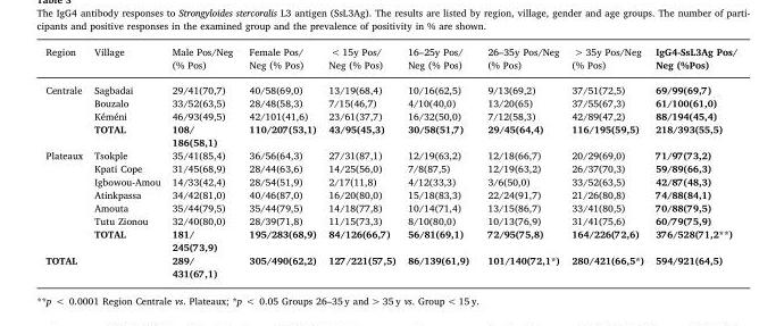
<table><thead><tr><td>Region</td><td>Village</td><td>Male Pos/Neg (% Pos)</td><td>Female Pos/ Neg (% Pos)</td><td>&lt; 15y Pos/ Neg (% Pos)</td><td>16–25y Pos/ Neg (% Pos)</td><td>26–35y Pos/Neg (% Pos)</td><td>&gt; 35y Pos/Neg (% Pos)</td><td>IgG4-SsL3Ag Pos/ Neg (%Pos)</td></tr></thead><tbody><tr><td rowspan="4">Centrale</td><td>Sagbadai</td><td>29/41(70,7)</td><td>40/58(69,0)</td><td>13/19(68,4)</td><td>10/16(62,5)</td><td>9/13(69,2)</td><td>37/51(72,5)</td><td>69/99(69,7)</td></tr><tr><td>Bouzalo</td><td>33/52(63,5)</td><td>28/48(58,3)</td><td>7/15(46,7)</td><td>4/10(40,0)</td><td>13/20(65)</td><td>37/55(67,3)</td><td>61/100(61,0)</td></tr><tr><td>Kéméni</td><td>46/93(49,5)</td><td>42/101(41,6)</td><td>23/61(37,7)</td><td>16/32(50,0)</td><td>7/12(58,3)</td><td>42/89(47,2)</td><td>88/194(45,4)</td></tr><tr><td>TOTAL</td><td>108/ 186(58,1)</td><td>110/207(53,1)</td><td>43/95(45,3)</td><td>30/58(51,7)</td><td>29/45(64,4)</td><td>116/195(59,5)</td><td>218/393(55,5)</td></tr><tr><td rowspan="7">Plateaux</td><td>Tsokple</td><td>35/41(85,4)</td><td>36/56(64,3)</td><td>27/31(87,1)</td><td>12/19(63,2)</td><td>12/18(66,7)</td><td>20/29(69,0)</td><td>71/97(73,2)</td></tr><tr><td>Kpati Cope</td><td>31/45(68,9)</td><td>28/44(63,6)</td><td>14/25(56,0)</td><td>7/8(87,5)</td><td>12/19(63,2)</td><td>26/37(70,3)</td><td>59/89(66,3)</td></tr><tr><td>Igbowou-Amou</td><td>14/33(42,4)</td><td>28/54(51,9)</td><td>2/17(11,8)</td><td>4/12(33,3)</td><td>3/6(50,0)</td><td>33/52(63,5)</td><td>42/87(48,3)</td></tr><tr><td>Atinkpassa</td><td>34/42(81,0)</td><td>40/46(87,0)</td><td>16/20(80,0)</td><td>15/18(83,3)</td><td>22/24(91,7)</td><td>21/26(80,8)</td><td>74/88(84,1)</td></tr><tr><td>Amouta</td><td>35/44(79,5)</td><td>35/44(79,5)</td><td>14/18(77,8)</td><td>10/14(71,4)</td><td>13/15(86,7)</td><td>33/41(80,5)</td><td>70/88(79,5)</td></tr><tr><td>Tutu Zionou</td><td>32/40(80,0)</td><td>28/39(71,8)</td><td>11/15(73,3)</td><td>8/10(80,0)</td><td>10/13(76,9)</td><td>31/41(75,6)</td><td>60/79(75,9)</td></tr><tr><td>TOTAL</td><td>181/ 245(73,9)</td><td>195/283(68,9)</td><td>84/126(66,7)</td><td>56/81(69,1)</td><td>72/95(75,8)</td><td>164/226(72,6)</td><td>376/528(71,2**)</td></tr><tr><td>TOTAL</td><td></td><td>289/ 431(67,1)</td><td>305/490(62,2)</td><td>127/221(57,5)</td><td>86/139(61,9)</td><td>101/140(72,1*)</td><td>280/421(66,5*)</td><td>594/921(64,5)</td></tr></tbody></table>